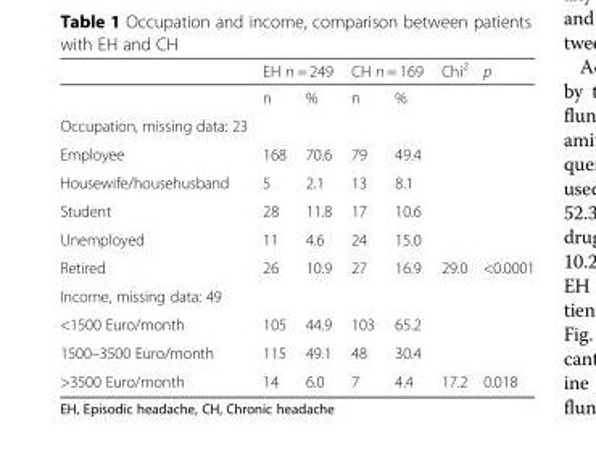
<table><thead><tr><td rowspan="2"></td><td colspan="2">EH n = 249</td><td colspan="2">CH n = 169</td><td rowspan="2">Chi<sup>2</sup></td><td rowspan="2">p</td></tr><tr><td>n</td><td>%</td><td>n</td><td>%</td></tr></thead><tbody><tr><td colspan="7">Occupation, missing data: 23</td></tr><tr><td>Employee</td><td>168</td><td>70.6</td><td>79</td><td>49.4</td><td></td><td></td></tr><tr><td>Housewife/househusband</td><td>5</td><td>2.1</td><td>13</td><td>8.1</td><td></td><td></td></tr><tr><td>Student</td><td>28</td><td>11.8</td><td>17</td><td>10.6</td><td></td><td></td></tr><tr><td>Unemployed</td><td>11</td><td>4.6</td><td>24</td><td>15.0</td><td></td><td></td></tr><tr><td>Retired</td><td>26</td><td>10.9</td><td>27</td><td>16.9</td><td>29.0</td><td>&lt;0.0001</td></tr><tr><td colspan="7">Income, missing data: 49</td></tr><tr><td>&lt;1500 Euro/month</td><td>105</td><td>44.9</td><td>103</td><td>65.2</td><td></td><td></td></tr><tr><td>1500–3500 Euro/month</td><td>115</td><td>49.1</td><td>48</td><td>30.4</td><td></td><td></td></tr><tr><td>&gt;3500 Euro/month</td><td>14</td><td>6.0</td><td>7</td><td>4.4</td><td>17.2</td><td>0.018</td></tr></tbody></table>